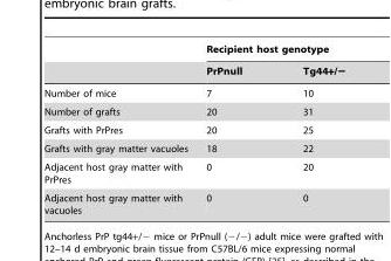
<table><thead><tr><td rowspan="2"></td><td colspan="2">Recipient host genotype</td></tr><tr><td>PrPnull</td><td>Tg44+/−</td></tr></thead><tbody><tr><td>Number of mice</td><td>7</td><td>10</td></tr><tr><td>Number of grafts</td><td>20</td><td>31</td></tr><tr><td>Grafts with PrPres</td><td>20</td><td>25</td></tr><tr><td>Grafts with gray matter vacuoles</td><td>18</td><td>22</td></tr><tr><td>Adjacent host gray matter with PrPres</td><td>0</td><td>20</td></tr><tr><td>Adjacent host gray matter with vacuoles</td><td>0</td><td>0</td></tr></tbody></table>